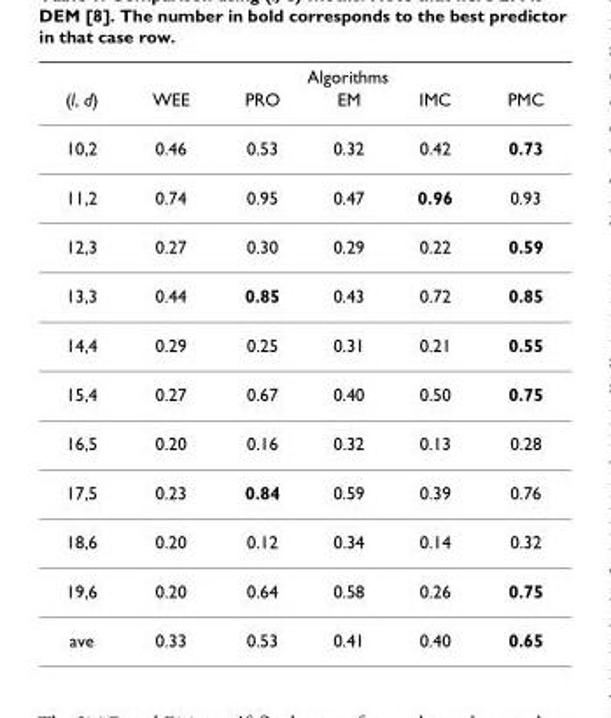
<table><thead><tr><td rowspan="2">(l, d)</td><td colspan="5">Algorithms</td></tr><tr><td>WEE</td><td>PRO</td><td>EM</td><td>IMC</td><td>PMC</td></tr></thead><tbody><tr><td>10,2</td><td>0.46</td><td>0.53</td><td>0.32</td><td>0.42</td><td>0.73</td></tr><tr><td>11,2</td><td>0.74</td><td>0.95</td><td>0.47</td><td>0.96</td><td>0.93</td></tr><tr><td>12,3</td><td>0.27</td><td>0.30</td><td>0.29</td><td>0.22</td><td>0.59</td></tr><tr><td>13,3</td><td>0.44</td><td>0.85</td><td>0.43</td><td>0.72</td><td>0.85</td></tr><tr><td>14,4</td><td>0.29</td><td>0.25</td><td>0.31</td><td>0.21</td><td>0.55</td></tr><tr><td>15,4</td><td>0.27</td><td>0.67</td><td>0.40</td><td>0.50</td><td>0.75</td></tr><tr><td>16,5</td><td>0.20</td><td>0.16</td><td>0.32</td><td>0.13</td><td>0.28</td></tr><tr><td>17,5</td><td>0.23</td><td>0.84</td><td>0.59</td><td>0.39</td><td>0.76</td></tr><tr><td>18,6</td><td>0.20</td><td>0.12</td><td>0.34</td><td>0.14</td><td>0.32</td></tr><tr><td>19,6</td><td>0.20</td><td>0.64</td><td>0.58</td><td>0.26</td><td>0.75</td></tr><tr><td>ave</td><td>0.33</td><td>0.53</td><td>0.41</td><td>0.40</td><td>0.65</td></tr></tbody></table>